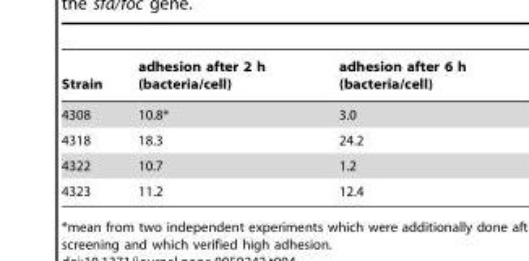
<table><thead><tr><td>Strain</td><td>adhesion after 2 h (bacteria/cell)</td><td>adhesion after 6 h (bacteria/cell)</td></tr></thead><tbody><tr><td>4308</td><td>10.8*</td><td>3.0</td></tr><tr><td>4318</td><td>18.3</td><td>24.2</td></tr><tr><td>4322</td><td>10.7</td><td>1.2</td></tr><tr><td>4323</td><td>11.2</td><td>12.4</td></tr></tbody></table>